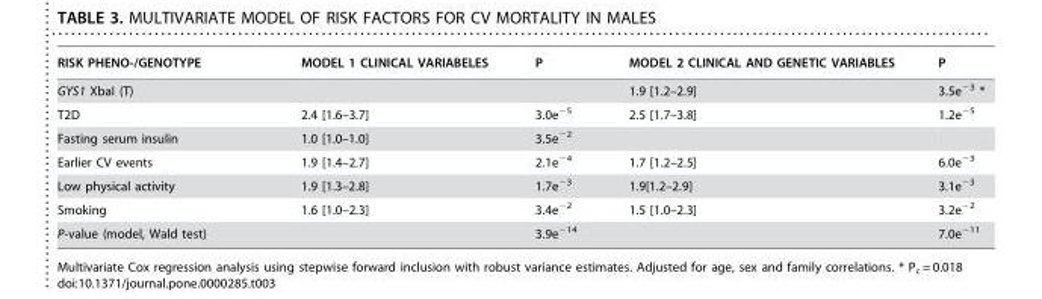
<table><thead><tr><td>RISK PHENO-/GENOTYPE</td><td>MODEL 1 CLINICAL VARIABELES</td><td>P</td><td>MODEL 2 CLINICAL AND GENETIC VARIABLES</td><td>P</td></tr></thead><tbody><tr><td>GYS1 XbaI (T)</td><td></td><td></td><td>1.9 [1.2–2.9]</td><td>3.5e<sup>−3</sup> *</td></tr><tr><td>T2D</td><td>2.4 [1.6–3.7]</td><td>3.0e<sup>−5</sup></td><td>2.5 [1.7–3.8]</td><td>1.2e<sup>−5</sup></td></tr><tr><td>Fasting serum insulin</td><td>1.0 [1.0–1.0]</td><td>3.5e<sup>−2</sup></td><td></td><td></td></tr><tr><td>Earlier CV events</td><td>1.9 [1.4–2.7]</td><td>2.1e<sup>−4</sup></td><td>1.7 [1.2–2.5]</td><td>6.0e<sup>−3</sup></td></tr><tr><td>Low physical activity</td><td>1.9 [1.3–2.8]</td><td>1.7e<sup>−3</sup></td><td>1.9[1.2–2.9]</td><td>3.1e<sup>−3</sup></td></tr><tr><td>Smoking</td><td>1.6 [1.0–2.3]</td><td>3.4e<sup>−2</sup></td><td>1.5 [1.0–2.3]</td><td>3.2e<sup>−2</sup></td></tr><tr><td>P-value (model, Wald test)</td><td></td><td>3.9e<sup>−14</sup></td><td></td><td>7.0e<sup>−11</sup></td></tr></tbody></table>